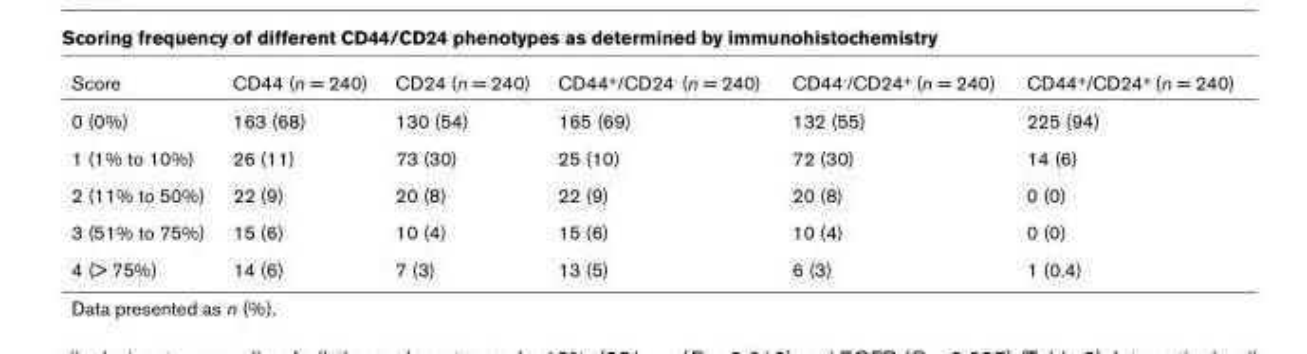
<table><thead><tr><td>Score</td><td>CD44 (n = 240)</td><td>CD24 (n = 240)</td><td>CD44<sup>+</sup>/CD24<sup>-</sup> (n = 240)</td><td>CD44<sup>-</sup>/CD24<sup>+</sup> (n = 240)</td><td>CD44<sup>+</sup>/CD24<sup>+</sup> (n = 240)</td></tr></thead><tbody><tr><td>0 (0%)</td><td>163 (68)</td><td>130 (54)</td><td>165 (69)</td><td>132 (55)</td><td>225 (94)</td></tr><tr><td>1 (1% to 10%)</td><td>26 (11)</td><td>73 (30)</td><td>25 (10)</td><td>72 (30)</td><td>14 (6)</td></tr><tr><td>2 (11% to 50%)</td><td>22 (9)</td><td>20 (8)</td><td>22 (9)</td><td>20 (8)</td><td>0 (0)</td></tr><tr><td>3 (51% to 75%)</td><td>15 (6)</td><td>10 (4)</td><td>15 (6)</td><td>10 (4)</td><td>0 (0)</td></tr><tr><td>4 (&gt; 75%)</td><td>14 (6)</td><td>7 (3)</td><td>13 (5)</td><td>6 (3)</td><td>1 (0.4)</td></tr></tbody></table>